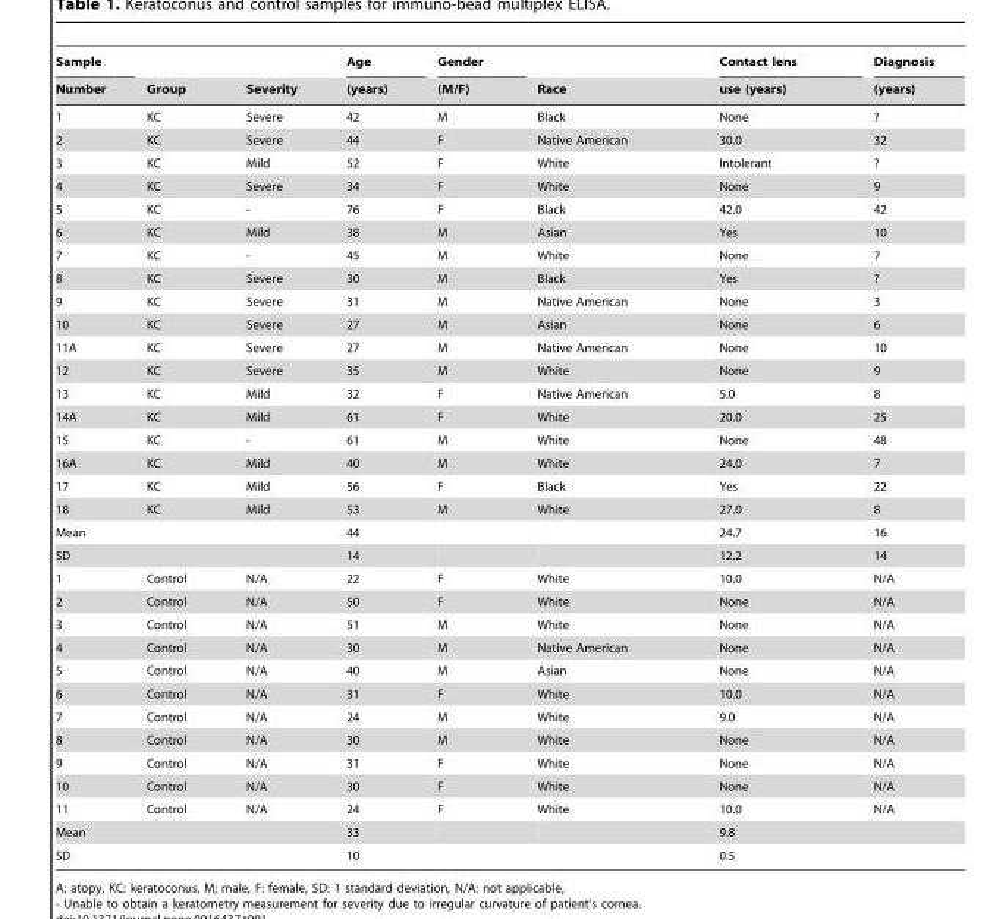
<table><thead><tr><td rowspan="2">Sample Number</td><td rowspan="2">Group</td><td rowspan="2">Severity</td><td rowspan="2">Age (years)</td><td rowspan="2">Gender (M/F)</td><td rowspan="2">Race</td><td rowspan="2">Contact lens use (years)</td><td rowspan="2">Diagnosis (years)</td></tr><tr></tr></thead><tbody><tr><td>1</td><td>KC</td><td>Severe</td><td>42</td><td>M</td><td>Black</td><td>None</td><td>?</td></tr><tr><td>2</td><td>KC</td><td>Severe</td><td>44</td><td>F</td><td>Native American</td><td>30.0</td><td>32</td></tr><tr><td>3</td><td>KC</td><td>Mild</td><td>52</td><td>F</td><td>White</td><td>Intolerant</td><td>?</td></tr><tr><td>4</td><td>KC</td><td>Severe</td><td>34</td><td>F</td><td>White</td><td>None</td><td>9</td></tr><tr><td>5</td><td>KC</td><td>-</td><td>76</td><td>F</td><td>Black</td><td>42.0</td><td>42</td></tr><tr><td>6</td><td>KC</td><td>Mild</td><td>38</td><td>M</td><td>Asian</td><td>Yes</td><td>10</td></tr><tr><td>7</td><td>KC</td><td>-</td><td>45</td><td>M</td><td>White</td><td>None</td><td>7</td></tr><tr><td>8</td><td>KC</td><td>Severe</td><td>30</td><td>M</td><td>Black</td><td>Yes</td><td>?</td></tr><tr><td>9</td><td>KC</td><td>Severe</td><td>31</td><td>M</td><td>Native American</td><td>None</td><td>3</td></tr><tr><td>10</td><td>KC</td><td>Severe</td><td>27</td><td>M</td><td>Asian</td><td>None</td><td>6</td></tr><tr><td>11A</td><td>KC</td><td>Severe</td><td>27</td><td>M</td><td>Native American</td><td>None</td><td>10</td></tr><tr><td>12</td><td>KC</td><td>Severe</td><td>35</td><td>M</td><td>White</td><td>None</td><td>9</td></tr><tr><td>13</td><td>KC</td><td>Mild</td><td>32</td><td>F</td><td>Native American</td><td>5.0</td><td>8</td></tr><tr><td>14A</td><td>KC</td><td>Mild</td><td>61</td><td>F</td><td>White</td><td>20.0</td><td>25</td></tr><tr><td>15</td><td>KC</td><td>-</td><td>61</td><td>M</td><td>White</td><td>None</td><td>48</td></tr><tr><td>16A</td><td>KC</td><td>Mild</td><td>40</td><td>M</td><td>White</td><td>24.0</td><td>7</td></tr><tr><td>17</td><td>KC</td><td>Mild</td><td>56</td><td>F</td><td>Black</td><td>Yes</td><td>22</td></tr><tr><td>18</td><td>KC</td><td>Mild</td><td>53</td><td>M</td><td>White</td><td>27.0</td><td>8</td></tr><tr><td>Mean</td><td></td><td></td><td>44</td><td></td><td></td><td>24.7</td><td>16</td></tr><tr><td>SD</td><td></td><td></td><td>14</td><td></td><td></td><td>12.2</td><td>14</td></tr><tr><td>1</td><td>Control</td><td>N/A</td><td>22</td><td>F</td><td>White</td><td>10.0</td><td>N/A</td></tr><tr><td>2</td><td>Control</td><td>N/A</td><td>50</td><td>F</td><td>White</td><td>None</td><td>N/A</td></tr><tr><td>3</td><td>Control</td><td>N/A</td><td>51</td><td>M</td><td>White</td><td>None</td><td>N/A</td></tr><tr><td>4</td><td>Control</td><td>N/A</td><td>30</td><td>M</td><td>Native American</td><td>None</td><td>N/A</td></tr><tr><td>5</td><td>Control</td><td>N/A</td><td>40</td><td>M</td><td>Asian</td><td>None</td><td>N/A</td></tr><tr><td>6</td><td>Control</td><td>N/A</td><td>31</td><td>F</td><td>White</td><td>10.0</td><td>N/A</td></tr><tr><td>7</td><td>Control</td><td>N/A</td><td>24</td><td>M</td><td>White</td><td>9.0</td><td>N/A</td></tr><tr><td>8</td><td>Control</td><td>N/A</td><td>30</td><td>M</td><td>White</td><td>None</td><td>N/A</td></tr><tr><td>9</td><td>Control</td><td>N/A</td><td>31</td><td>F</td><td>White</td><td>None</td><td>N/A</td></tr><tr><td>10</td><td>Control</td><td>N/A</td><td>30</td><td>F</td><td>White</td><td>None</td><td>N/A</td></tr><tr><td>11</td><td>Control</td><td>N/A</td><td>24</td><td>F</td><td>White</td><td>10.0</td><td>N/A</td></tr><tr><td>Mean</td><td></td><td></td><td>33</td><td></td><td></td><td>9.8</td><td></td></tr><tr><td>SD</td><td></td><td></td><td>10</td><td></td><td></td><td>0.5</td><td></td></tr></tbody></table>